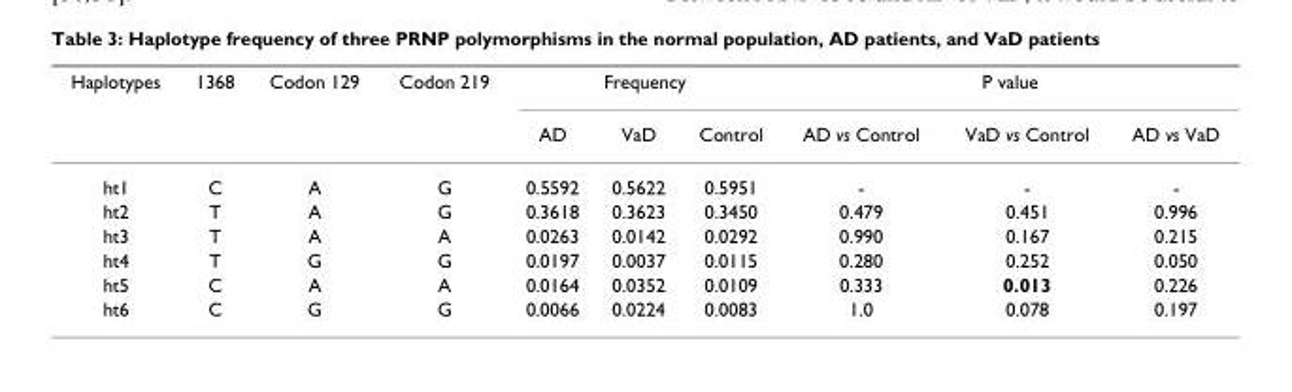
<table><thead><tr><td rowspan="2">Haplotypes</td><td rowspan="2">1368</td><td rowspan="2">Codon 129</td><td rowspan="2">Codon 219</td><td colspan="3">Frequency</td><td colspan="3">P value</td></tr><tr><td>AD</td><td>VaD</td><td>Control</td><td>AD vs Control</td><td>VaD vs Control</td><td>AD vs VaD</td></tr></thead><tbody><tr><td>ht1</td><td>C</td><td>A</td><td>G</td><td>0.5592</td><td>0.5622</td><td>0.5951</td><td>-</td><td>-</td><td>-</td></tr><tr><td>ht2</td><td>T</td><td>A</td><td>G</td><td>0.3618</td><td>0.3623</td><td>0.3450</td><td>0.479</td><td>0.451</td><td>0.996</td></tr><tr><td>ht3</td><td>T</td><td>A</td><td>A</td><td>0.0263</td><td>0.0142</td><td>0.0292</td><td>0.990</td><td>0.167</td><td>0.215</td></tr><tr><td>ht4</td><td>T</td><td>G</td><td>G</td><td>0.0197</td><td>0.0037</td><td>0.0115</td><td>0.280</td><td>0.252</td><td>0.050</td></tr><tr><td>ht5</td><td>C</td><td>A</td><td>A</td><td>0.0164</td><td>0.0352</td><td>0.0109</td><td>0.333</td><td>0.013</td><td>0.226</td></tr><tr><td>ht6</td><td>C</td><td>G</td><td>G</td><td>0.0066</td><td>0.0224</td><td>0.0083</td><td>1.0</td><td>0.078</td><td>0.197</td></tr></tbody></table>